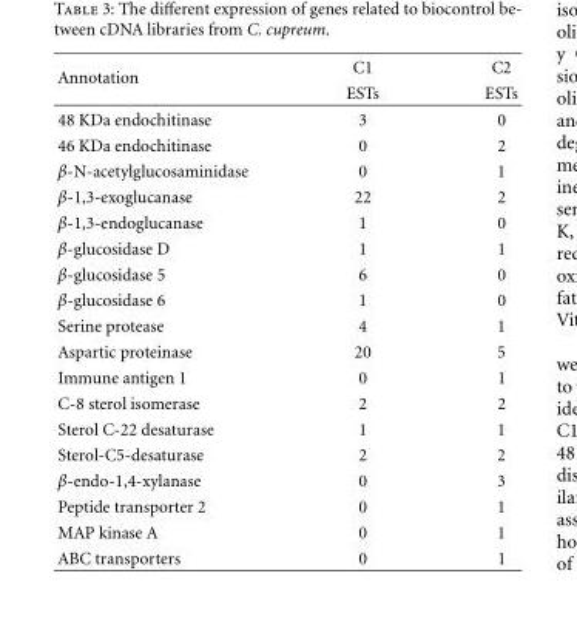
<table><thead><tr><td rowspan="2">Annotation</td><td rowspan="2">C1 ESTs</td><td rowspan="2">C2 ESTs</td></tr><tr></tr></thead><tbody><tr><td>48 KDa endochitinase</td><td>3</td><td>0</td></tr><tr><td>46 KDa endochitinase</td><td>0</td><td>2</td></tr><tr><td>β-N-acetylglucosaminidase</td><td>0</td><td>1</td></tr><tr><td>β-1,3-exoglucanase</td><td>22</td><td>2</td></tr><tr><td>β-1,3-endoglucanase</td><td>1</td><td>0</td></tr><tr><td>β-glucosidase D</td><td>1</td><td>1</td></tr><tr><td>β-glucosidase 5</td><td>6</td><td>0</td></tr><tr><td>β-glucosidase 6</td><td>1</td><td>0</td></tr><tr><td>Serine protease</td><td>4</td><td>1</td></tr><tr><td>Aspartic proteinase</td><td>20</td><td>5</td></tr><tr><td>Immune antigen 1</td><td>0</td><td>1</td></tr><tr><td>C-8 sterol isomerase</td><td>2</td><td>2</td></tr><tr><td>Sterol C-22 desaturase</td><td>1</td><td>1</td></tr><tr><td>Sterol-C5-desaturase</td><td>2</td><td>2</td></tr><tr><td>β-endo-1,4-xylanase</td><td>0</td><td>3</td></tr><tr><td>Peptide transporter 2</td><td>0</td><td>1</td></tr><tr><td>MAP kinase A</td><td>0</td><td>1</td></tr><tr><td>ABC transporters</td><td>0</td><td>1</td></tr></tbody></table>